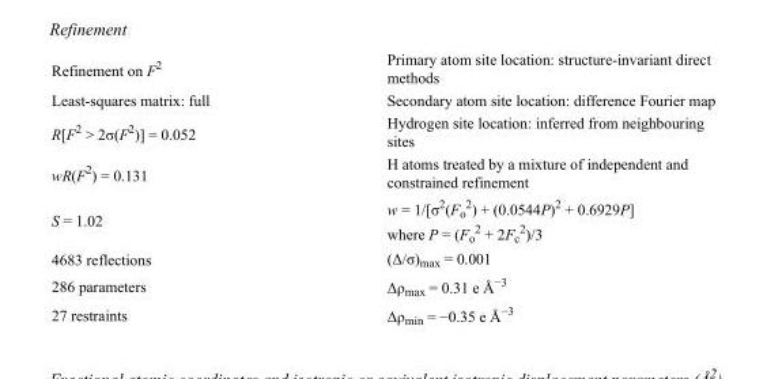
<table><tbody><tr><td>Refinement on F<sup>2</sup></td><td>Primary atom site location: structure-invariant direct methods</td></tr><tr><td>Least-squares matrix: full</td><td>Secondary atom site location: difference Fourier map</td></tr><tr><td>R[F<sup>2</sup> &gt; 2σ(F<sup>2</sup>)] = 0.052</td><td>Hydrogen site location: inferred from neighbouring sites</td></tr><tr><td>wR(F<sup>2</sup>) = 0.131</td><td>H atoms treated by a mixture of independent and constrained refinement</td></tr><tr><td>S = 1.02</td><td>w = 1/[σ<sup>2</sup>(F<sub>o</sub> <sup>2</sup>) + (0.0544P)<sup>2</sup> + 0.6929P] where P = (F<sub>o</sub> <sup>2</sup> + 2F<sub>c</sub> <sup>2</sup>)/3</td></tr><tr><td>4683 reflections</td><td>(Δ/σ)<sub>max</sub> = 0.001</td></tr><tr><td>286 parameters</td><td>Δρ<sub>max</sub> = 0.31 e Å<sup>−3</sup></td></tr><tr><td>27 restraints</td><td>Δρ<sub>min</sub> = −0.35 e Å<sup>−3</sup></td></tr></tbody></table>